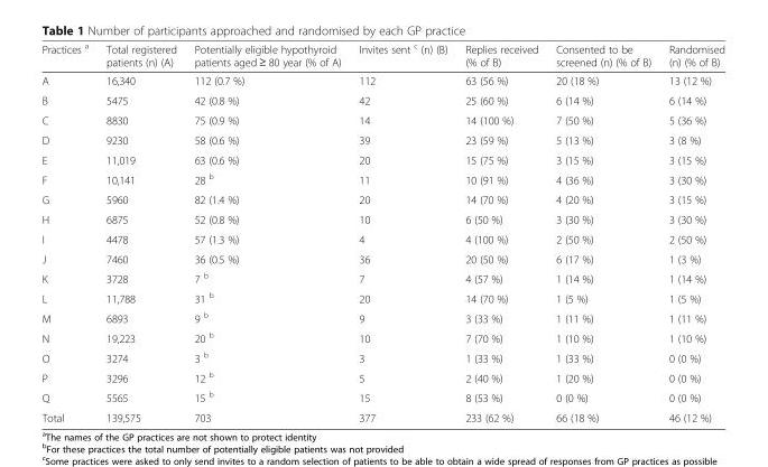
<table><thead><tr><td>Practices <sup>a</sup></td><td>Total registered patients (n) (A)</td><td>Potentially eligible hypothyroid patients aged ≥ 80 year (% of A)</td><td>Invites sent <sup>c</sup> (n) (B)</td><td>Replies received (% of B)</td><td>Consented to be screened (n) (% of B)</td><td>Randomised (n) (% of B)</td></tr></thead><tbody><tr><td>A</td><td>16,340</td><td>112 (0.7 %)</td><td>112</td><td>63 (56 %)</td><td>20 (18 %)</td><td>13 (12 %)</td></tr><tr><td>B</td><td>5475</td><td>42 (0.8 %)</td><td>42</td><td>25 (60 %)</td><td>6 (14 %)</td><td>6 (14 %)</td></tr><tr><td>C</td><td>8830</td><td>75 (0.9 %)</td><td>14</td><td>14 (100 %)</td><td>7 (50 %)</td><td>5 (36 %)</td></tr><tr><td>D</td><td>9230</td><td>58 (0.6 %)</td><td>39</td><td>23 (59 %)</td><td>5 (13 %)</td><td>3 (8 %)</td></tr><tr><td>E</td><td>11,019</td><td>63 (0.6 %)</td><td>20</td><td>15 (75 %)</td><td>3 (15 %)</td><td>3 (15 %)</td></tr><tr><td>F</td><td>10,141</td><td>28 <sup>b</sup></td><td>11</td><td>10 (91 %)</td><td>4 (36 %)</td><td>3 (30 %)</td></tr><tr><td>G</td><td>5960</td><td>82 (1.4 %)</td><td>20</td><td>14 (70 %)</td><td>4 (20 %)</td><td>3 (15 %)</td></tr><tr><td>H</td><td>6875</td><td>52 (0.8 %)</td><td>10</td><td>6 (50 %)</td><td>3 (30 %)</td><td>3 (30 %)</td></tr><tr><td>I</td><td>4478</td><td>57 (1.3 %)</td><td>4</td><td>4 (100 %)</td><td>2 (50 %)</td><td>2 (50 %)</td></tr><tr><td>J</td><td>7460</td><td>36 (0.5 %)</td><td>36</td><td>20 (50 %)</td><td>6 (17 %)</td><td>1 (3 %)</td></tr><tr><td>K</td><td>3728</td><td>7 <sup>b</sup></td><td>7</td><td>4 (57 %)</td><td>1 (14 %)</td><td>1 (14 %)</td></tr><tr><td>L</td><td>11,788</td><td>31 <sup>b</sup></td><td>20</td><td>14 (70 %)</td><td>1 (5 %)</td><td>1 (5 %)</td></tr><tr><td>M</td><td>6893</td><td>9 <sup>b</sup></td><td>9</td><td>3 (33 %)</td><td>1 (11 %)</td><td>1 (11 %)</td></tr><tr><td>N</td><td>19,223</td><td>20 <sup>b</sup></td><td>10</td><td>7 (70 %)</td><td>1 (10 %)</td><td>1 (10 %)</td></tr><tr><td>O</td><td>3274</td><td>3 <sup>b</sup></td><td>3</td><td>1 (33 %)</td><td>1 (33 %)</td><td>0 (0 %)</td></tr><tr><td>P</td><td>3296</td><td>12 <sup>b</sup></td><td>5</td><td>2 (40 %)</td><td>1 (20 %)</td><td>0 (0 %)</td></tr><tr><td>Q</td><td>5565</td><td>15 <sup>b</sup></td><td>15</td><td>8 (53 %)</td><td>0 (0 %)</td><td>0 (0 %)</td></tr><tr><td>Total</td><td>139,575</td><td>703</td><td>377</td><td>233 (62 %)</td><td>66 (18 %)</td><td>46 (12 %)</td></tr></tbody></table>